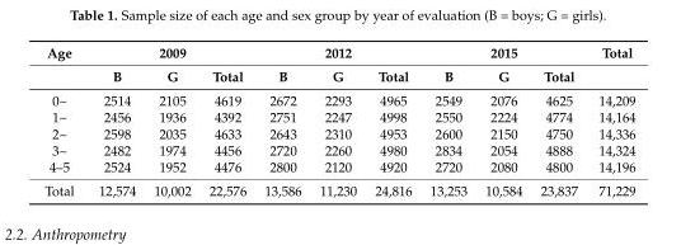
<table><thead><tr><td rowspan="2">Age</td><td colspan="3">2009</td><td colspan="3">2012</td><td colspan="3">2015</td><td rowspan="2">Total</td></tr><tr><td>B</td><td>G</td><td>Total</td><td>B</td><td>G</td><td>Total</td><td>B</td><td>G</td><td>Total</td></tr></thead><tbody><tr><td>0~</td><td>2514</td><td>2105</td><td>4619</td><td>2672</td><td>2293</td><td>4965</td><td>2549</td><td>2076</td><td>4625</td><td>14,209</td></tr><tr><td>1~</td><td>2456</td><td>1936</td><td>4392</td><td>2751</td><td>2247</td><td>4998</td><td>2550</td><td>2224</td><td>4774</td><td>14,164</td></tr><tr><td>2~</td><td>2598</td><td>2035</td><td>4633</td><td>2643</td><td>2310</td><td>4953</td><td>2600</td><td>2150</td><td>4750</td><td>14,336</td></tr><tr><td>3~</td><td>2482</td><td>1974</td><td>4456</td><td>2720</td><td>2260</td><td>4980</td><td>2834</td><td>2054</td><td>4888</td><td>14,324</td></tr><tr><td>4–5</td><td>2524</td><td>1952</td><td>4476</td><td>2800</td><td>2120</td><td>4920</td><td>2720</td><td>2080</td><td>4800</td><td>14,196</td></tr><tr><td>Total</td><td>12,574</td><td>10,002</td><td>22,576</td><td>13,586</td><td>11,230</td><td>24,816</td><td>13,253</td><td>10,584</td><td>23,837</td><td>71,229</td></tr></tbody></table>